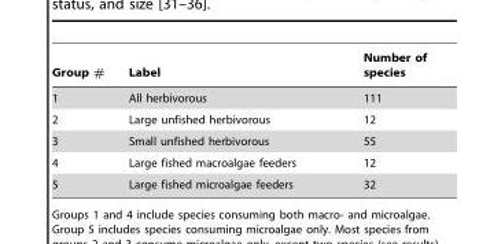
<table><thead><tr><td>Group #</td><td>Label</td><td>Number of species</td></tr></thead><tbody><tr><td>1</td><td>All herbivorous</td><td>111</td></tr><tr><td>2</td><td>Large unfished herbivorous</td><td>12</td></tr><tr><td>3</td><td>Small unfished herbivorous</td><td>55</td></tr><tr><td>4</td><td>Large fished macroalgae feeders</td><td>12</td></tr><tr><td>5</td><td>Large fished microalgae feeders</td><td>32</td></tr></tbody></table>